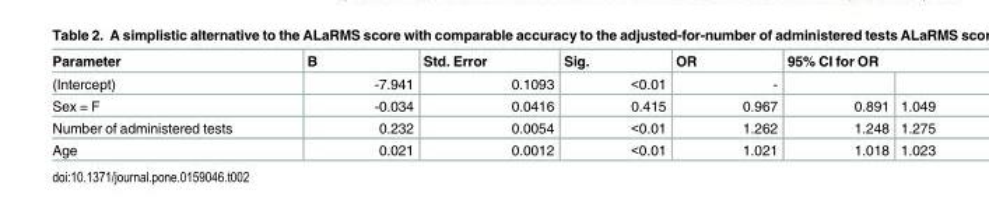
<table><thead><tr><td rowspan="2">Parameter (Intercept)</td><td rowspan="2">B -7.941</td><td rowspan="2">Std. Error 0.1093</td><td rowspan="2">Sig. &lt;0.01</td><td rowspan="2">OR -</td><td colspan="2">95% CI for OR</td></tr><tr><td></td><td></td></tr></thead><tbody><tr><td>Sex = F</td><td>-0.034</td><td>0.0416</td><td>0.415</td><td>0.967</td><td>0.891</td><td>1.049</td></tr><tr><td>Number of administered tests</td><td>0.232</td><td>0.0054</td><td>&lt;0.01</td><td>1.262</td><td>1.248</td><td>1.275</td></tr><tr><td>Age</td><td>0.021</td><td>0.0012</td><td>&lt;0.01</td><td>1.021</td><td>1.018</td><td>1.023</td></tr></tbody></table>